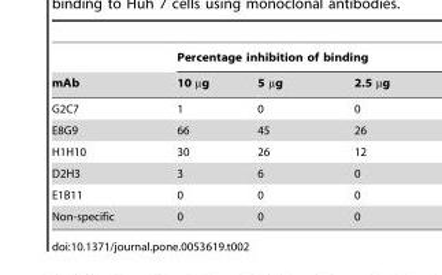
<table><thead><tr><td rowspan="2">mAb</td><td colspan="3">Percentage inhibition of binding</td></tr><tr><td>10 µg</td><td>5 µg</td><td>2.5 µg</td></tr></thead><tbody><tr><td>G2C7</td><td>1</td><td>0</td><td>0</td></tr><tr><td>E8G9</td><td>66</td><td>45</td><td>26</td></tr><tr><td>H1H10</td><td>30</td><td>26</td><td>12</td></tr><tr><td>D2H3</td><td>3</td><td>6</td><td>0</td></tr><tr><td>E1B11</td><td>0</td><td>0</td><td>0</td></tr><tr><td>Non-specific</td><td>0</td><td>0</td><td>0</td></tr></tbody></table>